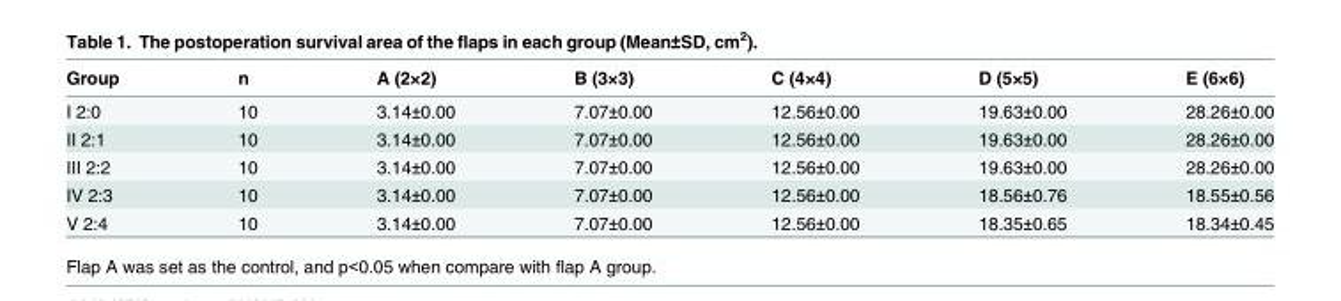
<table><thead><tr><td>Group</td><td>n</td><td>A (2×2)</td><td>B (3×3)</td><td>C (4×4)</td><td>D (5×5)</td><td>E (6×6)</td></tr></thead><tbody><tr><td>I 2:0</td><td>10</td><td>3.14±0.00</td><td>7.07±0.00</td><td>12.56±0.00</td><td>19.63±0.00</td><td>28.26±0.00</td></tr><tr><td>II 2:1</td><td>10</td><td>3.14±0.00</td><td>7.07±0.00</td><td>12.56±0.00</td><td>19.63±0.00</td><td>28.26±0.00</td></tr><tr><td>III 2:2</td><td>10</td><td>3.14±0.00</td><td>7.07±0.00</td><td>12.56±0.00</td><td>19.63±0.00</td><td>28.26±0.00</td></tr><tr><td>IV 2:3</td><td>10</td><td>3.14±0.00</td><td>7.07±0.00</td><td>12.56±0.00</td><td>18.56±0.76</td><td>18.55±0.56</td></tr><tr><td>V 2:4</td><td>10</td><td>3.14±0.00</td><td>7.07±0.00</td><td>12.56±0.00</td><td>18.35±0.65</td><td>18.34±0.45</td></tr></tbody></table>